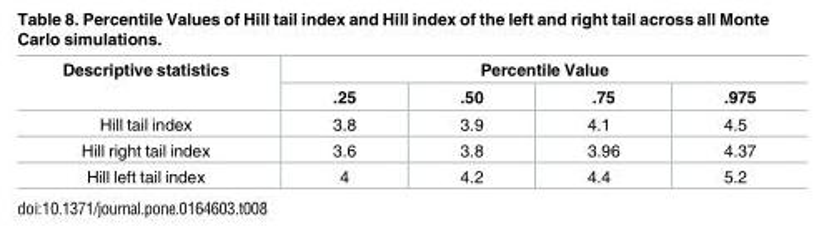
<table><thead><tr><td rowspan="2">Descriptive statistics</td><td colspan="4">Percentile Value</td></tr><tr><td>.25</td><td>.50</td><td>.75</td><td>.975</td></tr></thead><tbody><tr><td>Hill tail index</td><td>3.8</td><td>3.9</td><td>4.1</td><td>4.5</td></tr><tr><td>Hill right tail index</td><td>3.6</td><td>3.8</td><td>3.96</td><td>4.37</td></tr><tr><td>Hill left tail index</td><td>4</td><td>4.2</td><td>4.4</td><td>5.2</td></tr></tbody></table>